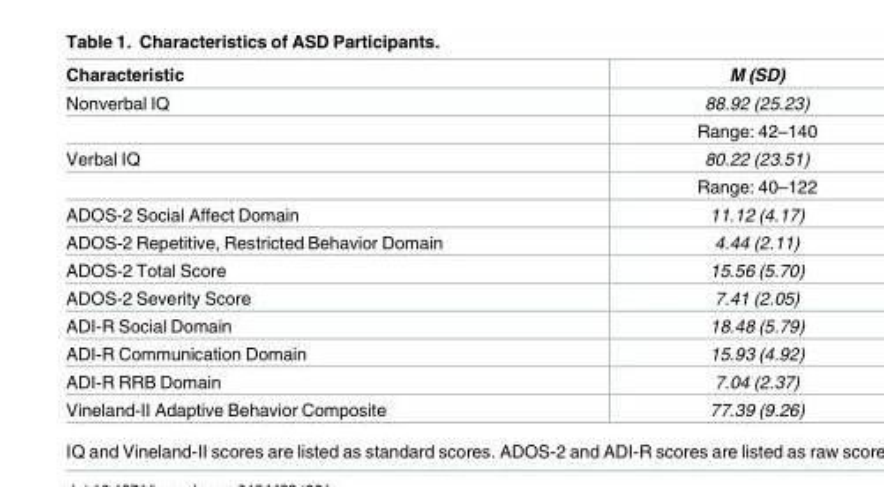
<table><thead><tr><td>Characteristic</td><td>M (SD)</td></tr></thead><tbody><tr><td rowspan="2">Nonverbal IQ</td><td>88.92 (25.23)</td></tr><tr><td>Range: 42–140</td></tr><tr><td rowspan="2">Verbal IQ</td><td>80.22 (23.51)</td></tr><tr><td>Range: 40–122</td></tr><tr><td>ADOS-2 Social Affect Domain</td><td>11.12 (4.17)</td></tr><tr><td>ADOS-2 Repetitive, Restricted Behavior Domain</td><td>4.44 (2.11)</td></tr><tr><td>ADOS-2 Total Score</td><td>15.56 (5.70)</td></tr><tr><td>ADOS-2 Severity Score</td><td>7.41 (2.05)</td></tr><tr><td>ADI-R Social Domain</td><td>18.48 (5.79)</td></tr><tr><td>ADI-R Communication Domain</td><td>15.93 (4.92)</td></tr><tr><td>ADI-R RRB Domain</td><td>7.04 (2.37)</td></tr><tr><td>Vineland-II Adaptive Behavior Composite</td><td>77.39 (9.26)</td></tr></tbody></table>